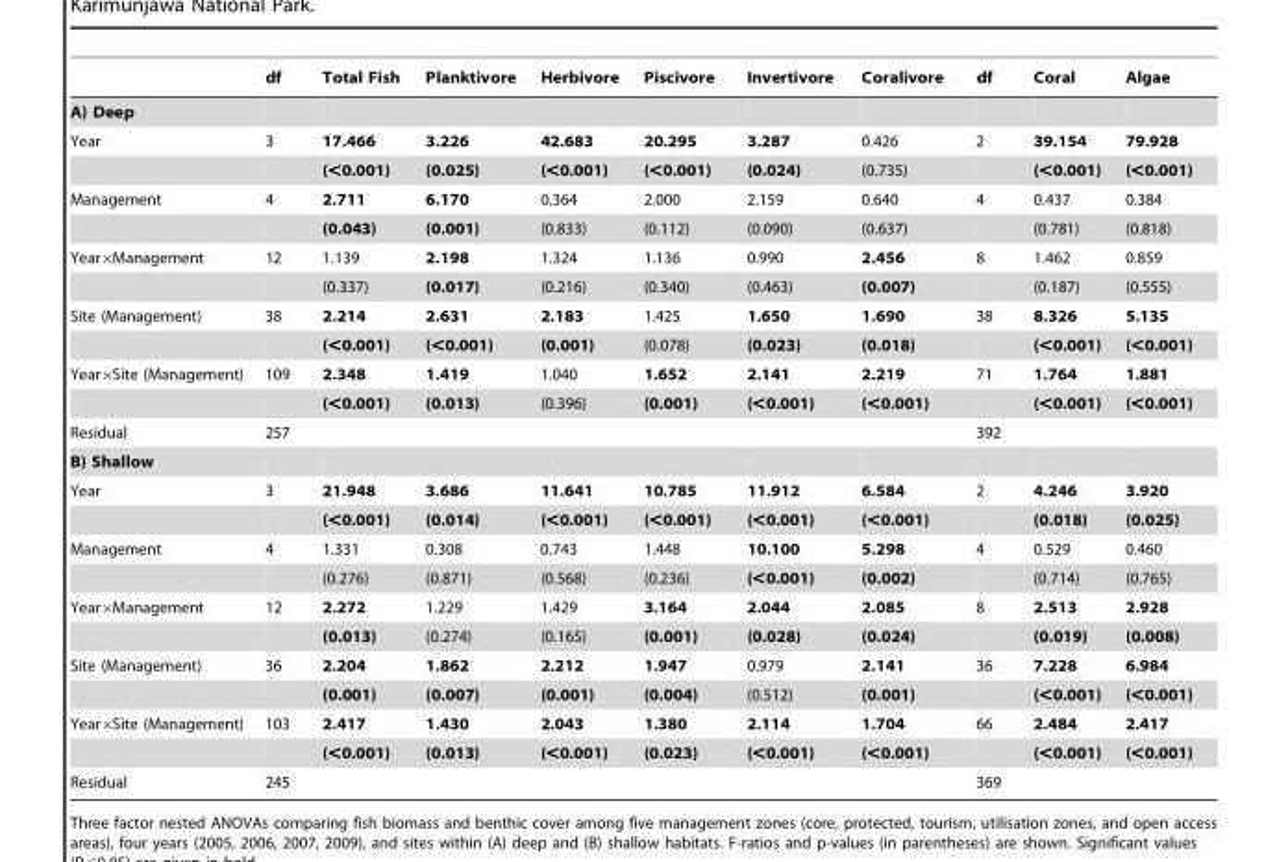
<table><thead><tr><td></td><td>df</td><td>Total Fish</td><td>Planktivore</td><td>Herbivore</td><td>Piscivore</td><td>Invertivore</td><td>Coralivore</td><td>df</td><td>Coral</td><td>Algae</td></tr></thead><tbody><tr><td colspan="11">A) Deep</td></tr><tr><td rowspan="2">Year</td><td>3</td><td>17.466</td><td>3.226</td><td>42.683</td><td>20.295</td><td>3.287</td><td>0.426</td><td>2</td><td>39.154</td><td>79.928</td></tr><tr><td></td><td>(&lt;0.001)</td><td>(0.025)</td><td>(&lt;0.001)</td><td>(&lt;0.001)</td><td>(0.024)</td><td>(0.735)</td><td></td><td>(&lt;0.001)</td><td>(&lt;0.001)</td></tr><tr><td rowspan="2">Management</td><td>4</td><td>2.711</td><td>6.170</td><td>0.364</td><td>2.000</td><td>2.159</td><td>0.640</td><td>4</td><td>0.437</td><td>0.384</td></tr><tr><td></td><td>(0.043)</td><td>(0.001)</td><td>(0.833)</td><td>(0.112)</td><td>(0.090)</td><td>(0.637)</td><td></td><td>(0.781)</td><td>(0.818)</td></tr><tr><td rowspan="2">Year×Management</td><td>12</td><td>1.139</td><td>2.198</td><td>1.324</td><td>1.136</td><td>0.990</td><td>2.456</td><td>8</td><td>1.462</td><td>0.859</td></tr><tr><td></td><td>(0.337)</td><td>(0.017)</td><td>(0.216)</td><td>(0.340)</td><td>(0.463)</td><td>(0.007)</td><td></td><td>(0.187)</td><td>(0.555)</td></tr><tr><td rowspan="2">Site (Management)</td><td>38</td><td>2.214</td><td>2.631</td><td>2.183</td><td>1.425</td><td>1.650</td><td>1.690</td><td>38</td><td>8.326</td><td>5.135</td></tr><tr><td></td><td>(&lt;0.001)</td><td>(&lt;0.001)</td><td>(0.001)</td><td>(0.078)</td><td>(0.023)</td><td>(0.018)</td><td></td><td>(&lt;0.001)</td><td>(&lt;0.001)</td></tr><tr><td rowspan="2">Year×Site (Management)</td><td>109</td><td>2.348</td><td>1.419</td><td>1.040</td><td>1.652</td><td>2.141</td><td>2.219</td><td>71</td><td>1.764</td><td>1.881</td></tr><tr><td></td><td>(&lt;0.001)</td><td>(0.013)</td><td>(0.396)</td><td>(0.001)</td><td>(&lt;0.001)</td><td>(&lt;0.001)</td><td></td><td>(&lt;0.001)</td><td>(&lt;0.001)</td></tr><tr><td>Residual</td><td>257</td><td></td><td></td><td></td><td></td><td></td><td></td><td>392</td><td></td><td></td></tr><tr><td colspan="11">B) Shallow</td></tr><tr><td rowspan="2">Year</td><td>3</td><td>21.948</td><td>3.686</td><td>11.641</td><td>10.785</td><td>11.912</td><td>6.584</td><td>2</td><td>4.246</td><td>3.920</td></tr><tr><td></td><td>(&lt;0.001)</td><td>(0.014)</td><td>(&lt;0.001)</td><td>(&lt;0.001)</td><td>(&lt;0.001)</td><td>(&lt;0.001)</td><td></td><td>(0.018)</td><td>(0.025)</td></tr><tr><td rowspan="2">Management</td><td>4</td><td>1.331</td><td>0.308</td><td>0.743</td><td>1.448</td><td>10.100</td><td>5.298</td><td>4</td><td>0.529</td><td>0.460</td></tr><tr><td></td><td>(0.276)</td><td>(0.871)</td><td>(0.568)</td><td>(0.236)</td><td>(&lt;0.001)</td><td>(0.002)</td><td></td><td>(0.714)</td><td>(0.765)</td></tr><tr><td rowspan="2">Year×Management</td><td>12</td><td>2.272</td><td>1.229</td><td>1.429</td><td>3.164</td><td>2.044</td><td>2.085</td><td>8</td><td>2.513</td><td>2.928</td></tr><tr><td></td><td>(0.013)</td><td>(0.274)</td><td>(0.165)</td><td>(0.001)</td><td>(0.028)</td><td>(0.024)</td><td></td><td>(0.019)</td><td>(0.008)</td></tr><tr><td rowspan="2">Site (Management)</td><td>36</td><td>2.204</td><td>1.862</td><td>2.212</td><td>1.947</td><td>0.979</td><td>2.141</td><td>36</td><td>7.228</td><td>6.984</td></tr><tr><td></td><td>(0.001)</td><td>(0.007)</td><td>(0.001)</td><td>(0.004)</td><td>(0.512)</td><td>(0.001)</td><td></td><td>(&lt;0.001)</td><td>(&lt;0.001)</td></tr><tr><td rowspan="2">Year×Site (Management)</td><td>103</td><td>2.417</td><td>1.430</td><td>2.043</td><td>1.380</td><td>2.114</td><td>1.704</td><td>66</td><td>2.484</td><td>2.417</td></tr><tr><td></td><td>(&lt;0.001)</td><td>(0.013)</td><td>(&lt;0.001)</td><td>(0.023)</td><td>(&lt;0.001)</td><td>(&lt;0.001)</td><td></td><td>(&lt;0.001)</td><td>(&lt;0.001)</td></tr><tr><td>Residual</td><td>245</td><td></td><td></td><td></td><td></td><td></td><td></td><td>369</td><td></td><td></td></tr></tbody></table>